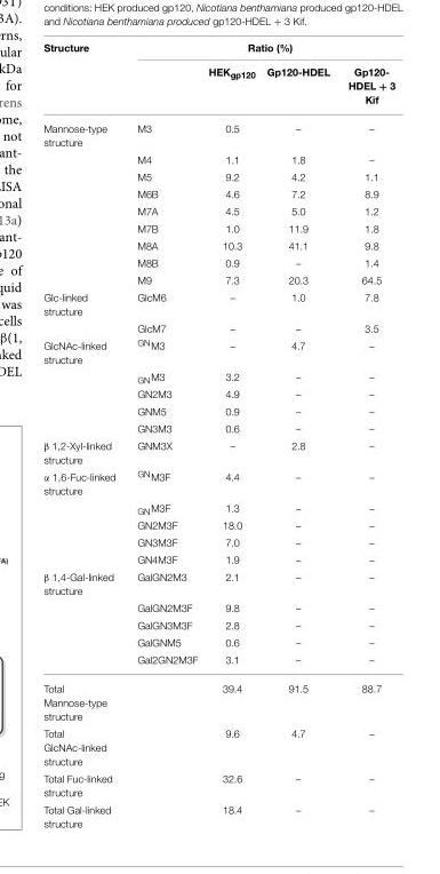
<table><thead><tr><td rowspan="2">Structure</td><td colspan="4">Ratio (%)</td></tr><tr><td></td><td>HEK<sub>gp120</sub></td><td>Gp120-HDEL</td><td>Gp120- HDEL + 3 Kif</td></tr></thead><tbody><tr><td rowspan="9">Mannose-type structure</td><td>M3</td><td>0.5</td><td>–</td><td>–</td></tr><tr><td>M4</td><td>1.1</td><td>1.8</td><td>–</td></tr><tr><td>M5</td><td>9.2</td><td>4.2</td><td>1.1</td></tr><tr><td>M6B</td><td>4.6</td><td>7.2</td><td>8.9</td></tr><tr><td>M7A</td><td>4.5</td><td>5.0</td><td>1.2</td></tr><tr><td>M7B</td><td>1.0</td><td>11.9</td><td>1.8</td></tr><tr><td>M8A</td><td>10.3</td><td>41.1</td><td>9.8</td></tr><tr><td>M8B</td><td>0.9</td><td>–</td><td>1.4</td></tr><tr><td>M9</td><td>7.3</td><td>20.3</td><td>64.5</td></tr><tr><td rowspan="2">Glc-linked structure</td><td>GlcM6</td><td>–</td><td>1.0</td><td>7.8</td></tr><tr><td>GlcM7</td><td>–</td><td>–</td><td>3.5</td></tr><tr><td rowspan="5">GlcNAc-linked structure</td><td><sup>GN</sup>M3</td><td>–</td><td>4.7</td><td>–</td></tr><tr><td><sub>GN</sub>M3</td><td>3.2</td><td>–</td><td>–</td></tr><tr><td>GN2M3</td><td>4.9</td><td>–</td><td>–</td></tr><tr><td>GNM5</td><td>0.9</td><td>–</td><td>–</td></tr><tr><td>GN3M3</td><td>0.6</td><td>–</td><td>–</td></tr><tr><td>β 1,2-Xyl-linked structure</td><td>GNM3X</td><td>–</td><td>2.8</td><td>–</td></tr><tr><td rowspan="5">α 1,6-Fuc-linked structure</td><td><sup>GN</sup>M3F</td><td>4.4</td><td>–</td><td>–</td></tr><tr><td><sub>GN</sub>M3F</td><td>1.3</td><td>–</td><td>–</td></tr><tr><td>GN2M3F</td><td>18.0</td><td>–</td><td>–</td></tr><tr><td>GN3M3F</td><td>7.0</td><td>–</td><td>–</td></tr><tr><td>GN4M3F</td><td>1.9</td><td>–</td><td>–</td></tr><tr><td rowspan="5">β 1,4-Gal-linked structure</td><td>GalGN2M3</td><td>2.1</td><td>–</td><td>–</td></tr><tr><td>GalGN2M3F</td><td>9.8</td><td>–</td><td>–</td></tr><tr><td>GalGN3M3F</td><td>2.8</td><td>–</td><td>–</td></tr><tr><td>GalGNM5</td><td>0.6</td><td>–</td><td>–</td></tr><tr><td>Gal2GN2M3F</td><td>3.1</td><td>–</td><td>–</td></tr><tr><td>Total Mannose-type structure</td><td></td><td>39.4</td><td>91.5</td><td>88.7</td></tr><tr><td>Total GlcNAc-linked structure</td><td></td><td>9.6</td><td>4.7</td><td>–</td></tr><tr><td>Total Fuc-linked structure</td><td></td><td>32.6</td><td>–</td><td>–</td></tr><tr><td>Total Gal-linked structure</td><td></td><td>18.4</td><td>–</td><td>–</td></tr></tbody></table>